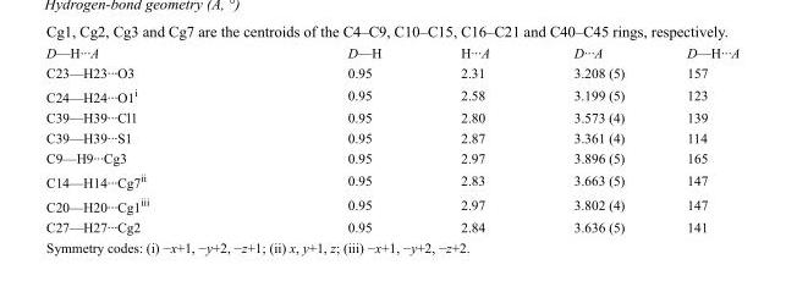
<table><tbody><tr><td>D—H···A</td><td>D—H</td><td>H···A</td><td>D···A</td><td>D—H···A</td></tr><tr><td>C23—H23···O3</td><td>0.95</td><td>2.31</td><td>3.208 (5)</td><td>157</td></tr><tr><td>C24—H24···O1<sup>i</sup></td><td>0.95</td><td>2.58</td><td>3.199 (5)</td><td>123</td></tr><tr><td>C39—H39···Cl1</td><td>0.95</td><td>2.80</td><td>3.573 (4)</td><td>139</td></tr><tr><td>C39—H39···S1</td><td>0.95</td><td>2.87</td><td>3.361 (4)</td><td>114</td></tr><tr><td>C9—H9···Cg3</td><td>0.95</td><td>2.97</td><td>3.896 (5)</td><td>165</td></tr><tr><td>C14—H14···Cg7<sup>ii</sup></td><td>0.95</td><td>2.83</td><td>3.663 (5)</td><td>147</td></tr><tr><td>C20—H20···Cg1<sup>iii</sup></td><td>0.95</td><td>2.97</td><td>3.802 (4)</td><td>147</td></tr><tr><td>C27—H27···Cg2</td><td>0.95</td><td>2.84</td><td>3.636 (5)</td><td>141</td></tr></tbody></table>